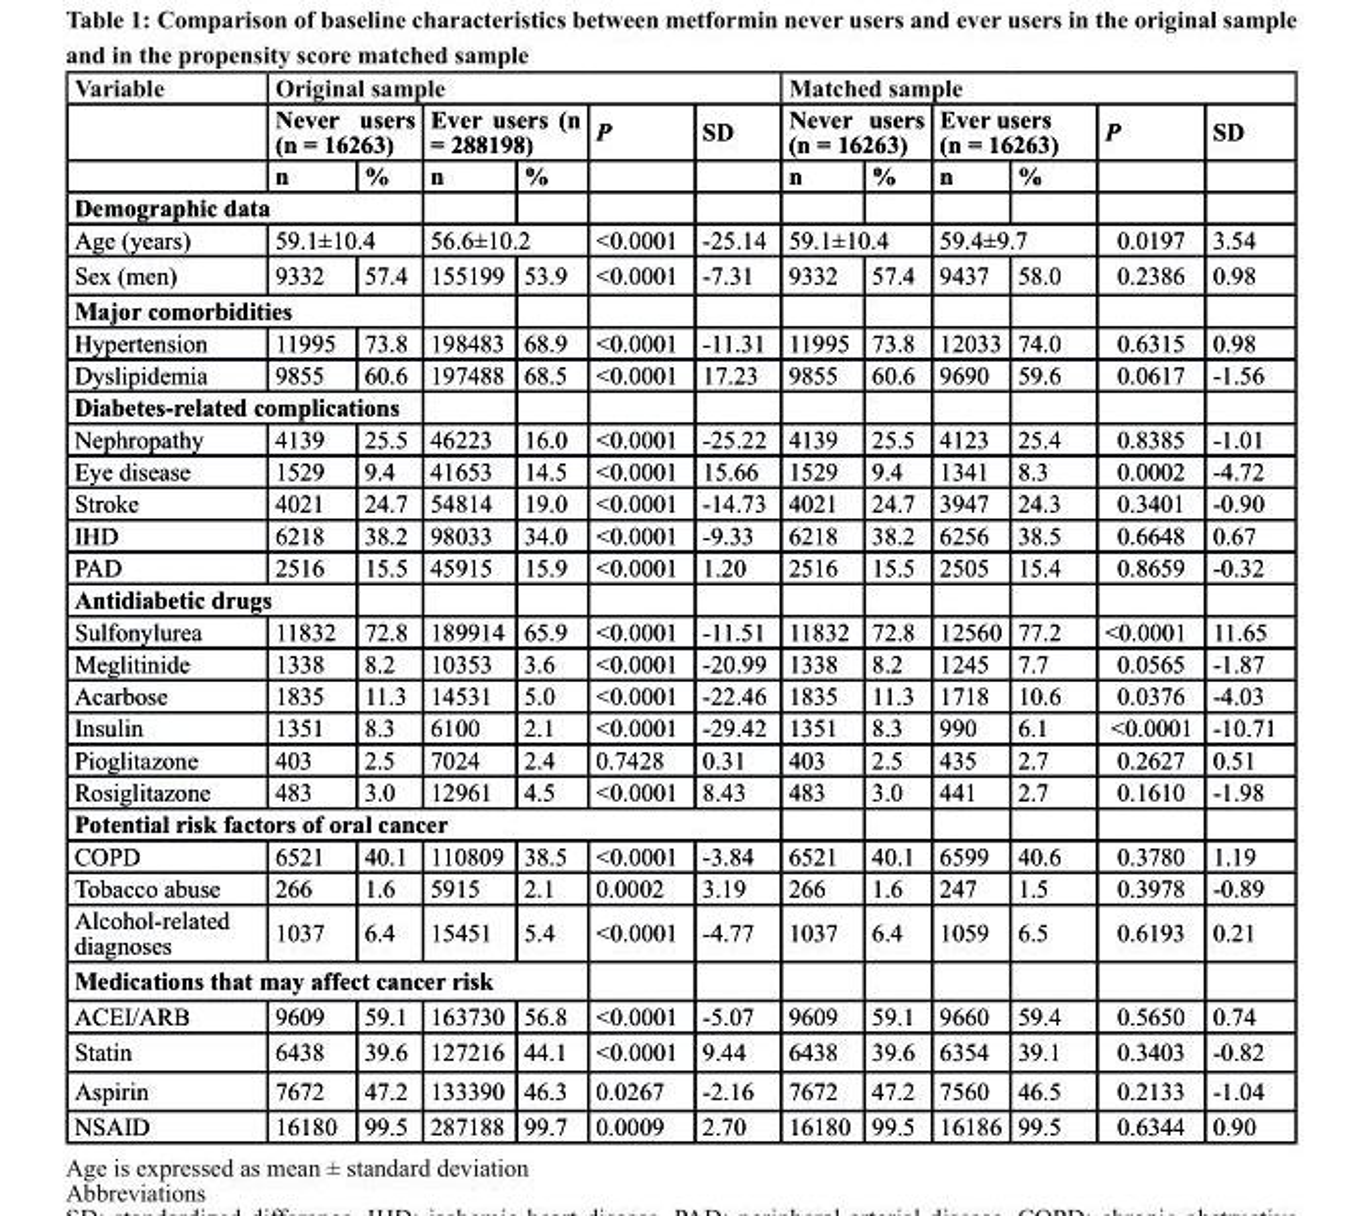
<table><thead><tr><td rowspan="3">Variable</td><td colspan="6">original sample</td><td colspan="6">Matched sample</td></tr><tr><td colspan="2">never users (n = 16263)</td><td colspan="2">ever users (n = 288198)</td><td rowspan="2">P</td><td rowspan="2">sd</td><td colspan="2">never users (n = 16263)</td><td colspan="2">ever users (n = 16263)</td><td rowspan="2">P</td><td rowspan="2">sd</td></tr><tr><td>n</td><td>%</td><td>n</td><td>%</td><td>n</td><td>%</td><td>n</td><td>%</td></tr></thead><tbody><tr><td colspan="13">demographic data</td></tr><tr><td>Age (years)</td><td colspan="2">59.1±10.4</td><td colspan="2">56.6±10.2</td><td>&lt;0.0001</td><td>-25.14</td><td colspan="2">59.1±10.4</td><td colspan="2">59.4±9.7</td><td>0.0197</td><td>3.54</td></tr><tr><td>Sex (men)</td><td>9332</td><td>57.4</td><td>155199</td><td>53.9</td><td>&lt;0.0001</td><td>-7.31</td><td>9332</td><td>57.4</td><td>9437</td><td>58.0</td><td>0.2386</td><td>0.98</td></tr><tr><td colspan="13">Major comorbidities</td></tr><tr><td>Hypertension</td><td>11995</td><td>73.8</td><td>198483</td><td>68.9</td><td>&lt;0.0001</td><td>-11.31</td><td>11995</td><td>73.8</td><td>12033</td><td>74.0</td><td>0.6315</td><td>0.98</td></tr><tr><td>Dyslipidemia</td><td>9855</td><td>60.6</td><td>197488</td><td>68.5</td><td>&lt;0.0001</td><td>17.23</td><td>9855</td><td>60.6</td><td>9690</td><td>59.6</td><td>0.0617</td><td>-1.56</td></tr><tr><td colspan="13">diabetes-related complications</td></tr><tr><td>Nephropathy</td><td>4139</td><td>25.5</td><td>46223</td><td>16.0</td><td>&lt;0.0001</td><td>-25.22</td><td>4139</td><td>25.5</td><td>4123</td><td>25.4</td><td>0.8385</td><td>-1.01</td></tr><tr><td>Eye disease</td><td>1529</td><td>9.4</td><td>41653</td><td>14.5</td><td>&lt;0.0001</td><td>15.66</td><td>1529</td><td>9.4</td><td>1341</td><td>8.3</td><td>0.0002</td><td>-4.72</td></tr><tr><td>Stroke</td><td>4021</td><td>24.7</td><td>54814</td><td>19.0</td><td>&lt;0.0001</td><td>-14.73</td><td>4021</td><td>24.7</td><td>3947</td><td>24.3</td><td>0.3401</td><td>-0.90</td></tr><tr><td>IHD</td><td>6218</td><td>38.2</td><td>98033</td><td>34.0</td><td>&lt;0.0001</td><td>-9.33</td><td>6218</td><td>38.2</td><td>6256</td><td>38.5</td><td>0.6648</td><td>0.67</td></tr><tr><td>PAD</td><td>2516</td><td>15.5</td><td>45915</td><td>15.9</td><td>&lt;0.0001</td><td>1.20</td><td>2516</td><td>15.5</td><td>2505</td><td>15.4</td><td>0.8659</td><td>-0.32</td></tr><tr><td colspan="13">Antidiabetic drugs</td></tr><tr><td>Sulfonylurea</td><td>11832</td><td>72.8</td><td>189914</td><td>65.9</td><td>&lt;0.0001</td><td>-11.51</td><td>11832</td><td>72.8</td><td>12560</td><td>77.2</td><td>&lt;0.0001</td><td>11.65</td></tr><tr><td>Meglitinide</td><td>1338</td><td>8.2</td><td>10353</td><td>3.6</td><td>&lt;0.0001</td><td>-20.99</td><td>1338</td><td>8.2</td><td>1245</td><td>7.7</td><td>0.0565</td><td>-1.87</td></tr><tr><td>Acarbose</td><td>1835</td><td>11.3</td><td>14531</td><td>5.0</td><td>&lt;0.0001</td><td>-22.46</td><td>1835</td><td>11.3</td><td>1718</td><td>10.6</td><td>0.0376</td><td>-4.03</td></tr><tr><td>Insulin</td><td>1351</td><td>8.3</td><td>6100</td><td>2.1</td><td>&lt;0.0001</td><td>-29.42</td><td>1351</td><td>8.3</td><td>990</td><td>6.1</td><td>&lt;0.0001</td><td>-10.71</td></tr><tr><td>Pioglitazone</td><td>403</td><td>2.5</td><td>7024</td><td>2.4</td><td>0.7428</td><td>0.31</td><td>403</td><td>2.5</td><td>435</td><td>2.7</td><td>0.2627</td><td>0.51</td></tr><tr><td>Rosiglitazone</td><td>483</td><td>3.0</td><td>12961</td><td>4.5</td><td>&lt;0.0001</td><td>8.43</td><td>483</td><td>3.0</td><td>441</td><td>2.7</td><td>0.1610</td><td>-1.98</td></tr><tr><td colspan="13">Potential risk factors of oral cancer</td></tr><tr><td>COPD</td><td>6521</td><td>40.1</td><td>110809</td><td>38.5</td><td>&lt;0.0001</td><td>-3.84</td><td>6521</td><td>40.1</td><td>6599</td><td>40.6</td><td>0.3780</td><td>1.19</td></tr><tr><td>Tobacco abuse</td><td>266</td><td>1.6</td><td>5915</td><td>2.1</td><td>0.0002</td><td>3.19</td><td>266</td><td>1.6</td><td>247</td><td>1.5</td><td>0.3978</td><td>-0.89</td></tr><tr><td>Alcohol-related diagnoses</td><td>1037</td><td>6.4</td><td>15451</td><td>5.4</td><td>&lt;0.0001</td><td>-4.77</td><td>1037</td><td>6.4</td><td>1059</td><td>6.5</td><td>0.6193</td><td>0.21</td></tr><tr><td colspan="13">Medications that may affect cancer risk</td></tr><tr><td>ACEI/ARB</td><td>9609</td><td>59.1</td><td>163730</td><td>56.8</td><td>&lt;0.0001</td><td>-5.07</td><td>9609</td><td>59.1</td><td>9660</td><td>59.4</td><td>0.5650</td><td>0.74</td></tr><tr><td>Statin</td><td>6438</td><td>39.6</td><td>127216</td><td>44.1</td><td>&lt;0.0001</td><td>9.44</td><td>6438</td><td>39.6</td><td>6354</td><td>39.1</td><td>0.3403</td><td>-0.82</td></tr><tr><td>Aspirin</td><td>7672</td><td>47.2</td><td>133390</td><td>46.3</td><td>0.0267</td><td>-2.16</td><td>7672</td><td>47.2</td><td>7560</td><td>46.5</td><td>0.2133</td><td>-1.04</td></tr><tr><td>NSAID</td><td>16180</td><td>99.5</td><td>287188</td><td>99.7</td><td>0.0009</td><td>2.70</td><td>16180</td><td>99.5</td><td>16186</td><td>99.5</td><td>0.6344</td><td>0.90</td></tr></tbody></table>